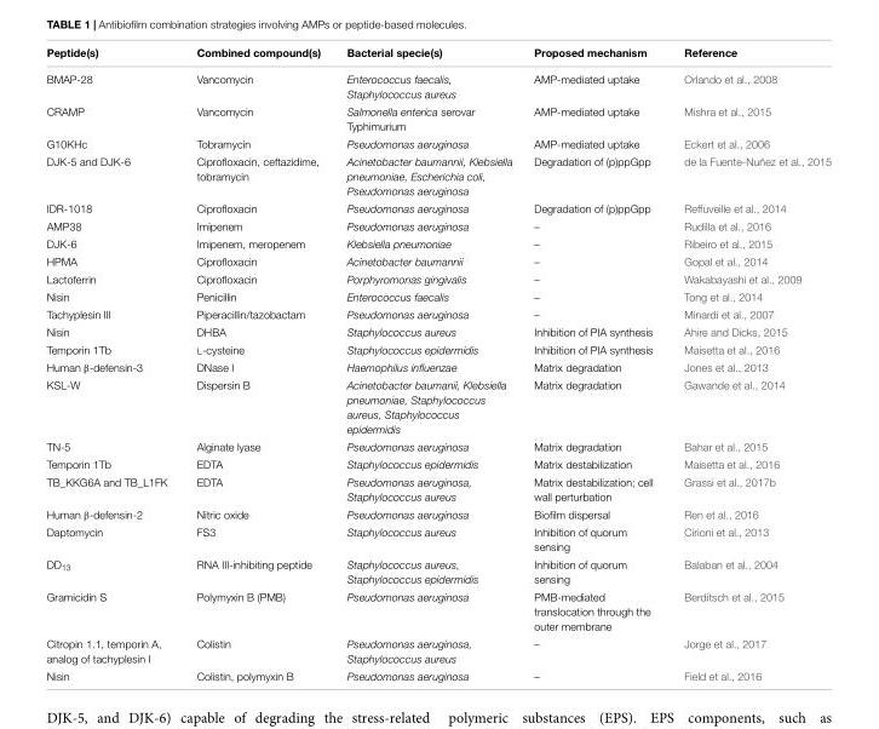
<table><thead><tr><td>Peptide(s)</td><td>Combined compound(s)</td><td>Bacterial specie(s)</td><td>Proposed mechanism</td><td>Reference</td></tr></thead><tbody><tr><td>BMAP-28</td><td>Vancomycin</td><td>Enterococcus faecalis, Staphylococcus aureus</td><td>AMP-mediated uptake</td><td>Orlando et al., 2008</td></tr><tr><td>CRAMP</td><td>Vancomycin</td><td>Salmonella enterica serovar Typhimurium</td><td>AMP-mediated uptake</td><td>Mishra et al., 2015</td></tr><tr><td>G10KHc</td><td>Tobramycin</td><td>Pseudomonas aeruginosa</td><td>AMP-mediated uptake</td><td>Eckert et al., 2006</td></tr><tr><td>DJK-5 and DJK-6</td><td>Ciprofloxacin, ceftazidime, tobramycin</td><td>Acinetobacter baumannii, Klebsiella pneumoniae, Escherichia coli, Pseudomonas aeruginosa</td><td>Degradation of (p)ppGpp</td><td>de la Fuente-Nuñez et al., 2015</td></tr><tr><td>IDR-1018</td><td>Ciprofloxacin</td><td>Pseudomonas aeruginosa</td><td>Degradation of (p)ppGpp</td><td>Reffuveille et al., 2014</td></tr><tr><td>AMP38</td><td>Imipenem</td><td>Pseudomonas aeruginosa</td><td>–</td><td>Rudilla et al., 2016</td></tr><tr><td>DJK-6</td><td>Imipenem, meropenem</td><td>Klebsiella pneumoniae</td><td>–</td><td>Ribeiro et al., 2015</td></tr><tr><td>HPMA</td><td>Ciprofloxacin</td><td>Acinetobacter baumannii</td><td>–</td><td>Gopal et al., 2014</td></tr><tr><td>Lactoferrin</td><td>Ciprofloxacin</td><td>Porphyromonas gingivalis</td><td>–</td><td>Wakabayashi et al., 2009</td></tr><tr><td>Nisin</td><td>Penicillin</td><td>Enterococcus faecalis</td><td>–</td><td>Tong et al., 2014</td></tr><tr><td>Tachyplesin III</td><td>Piperacillin/tazobactam</td><td>Pseudomonas aeruginosa</td><td>–</td><td>Minardi et al., 2007</td></tr><tr><td>Nisin</td><td>DHBA</td><td>Staphylococcus aureus</td><td>Inhibition of PIA synthesis</td><td>Ahire and Dicks, 2015</td></tr><tr><td>Temporin 1Tb</td><td>L-cysteine</td><td>Staphylococcus epidermidis</td><td>Inhibition of PIA synthesis</td><td>Maisetta et al., 2016</td></tr><tr><td>Human β-defensin-3</td><td>DNase I</td><td>Haemophilus influenzae</td><td>Matrix degradation</td><td>Jones et al., 2013</td></tr><tr><td>KSL-W</td><td>Dispersin B</td><td>Acinetobacter baumanii, Klebsiella pneumoniae, Staphylococcus aureus, Staphylococcus epidermidis</td><td>Matrix degradation</td><td>Gawande et al., 2014</td></tr><tr><td>TN-5</td><td>Alginate lyase</td><td>Pseudomonas aeruginosa</td><td>Matrix degradation</td><td>Bahar et al., 2015</td></tr><tr><td>Temporin 1Tb</td><td>EDTA</td><td>Staphylococcus epidermidis</td><td>Matrix destabilization</td><td>Maisetta et al., 2016</td></tr><tr><td>TB_KKG6A and TB_L1FK</td><td>EDTA</td><td>Pseudomonas aeruginosa, Staphylococcus aureus</td><td>Matrix destabilization; cell wall perturbation</td><td>Grassi et al., 2017b</td></tr><tr><td>Human β-defensin-2</td><td>Nitric oxide</td><td>Pseudomonas aeruginosa</td><td>Biofilm dispersal</td><td>Ren et al., 2016</td></tr><tr><td>Daptomycin</td><td>FS3</td><td>Staphylococcus aureus</td><td>Inhibition of quorum sensing</td><td>Cirioni et al., 2013</td></tr><tr><td>DD<sub>13</sub></td><td>RNA III-inhibiting peptide</td><td>Staphylococcus aureus, Staphylococcus epidermidis</td><td>Inhibition of quorum sensing</td><td>Balaban et al., 2004</td></tr><tr><td>Gramicidin S</td><td>Polymyxin B (PMB)</td><td>Pseudomonas aeruginosa</td><td>PMB-mediated translocation through the outer membrane</td><td>Berditsch et al., 2015</td></tr><tr><td>Citropin 1.1, temporin A, analog of tachyplesin I</td><td>Colistin</td><td>Pseudomonas aeruginosa, Staphylococcus aureus</td><td>–</td><td>Jorge et al., 2017</td></tr><tr><td>Nisin</td><td>Colistin, polymyxin B</td><td>Pseudomonas aeruginosa</td><td>–</td><td>Field et al., 2016</td></tr></tbody></table>